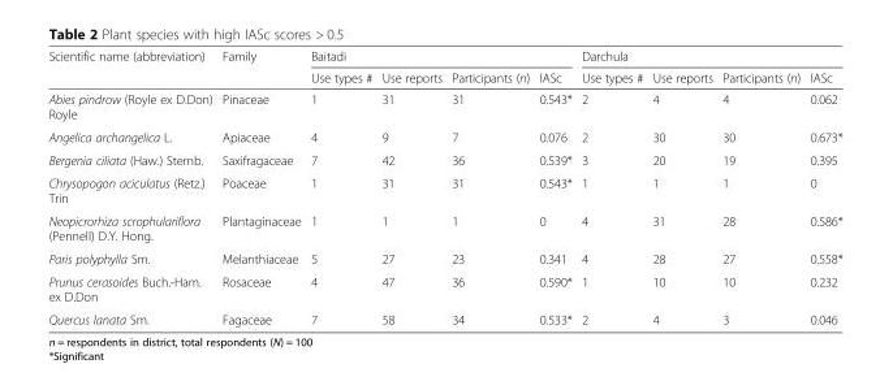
<table><thead><tr><td rowspan="2">Scientific name (abbreviation)</td><td rowspan="2">Family</td><td colspan="4">Baitadi</td><td colspan="4">Darchula</td></tr><tr><td>Use types #</td><td>Use reports</td><td>Participants (n)</td><td>IASc</td><td>Use types #</td><td>Use reports</td><td>Participants (n)</td><td>IASc</td></tr></thead><tbody><tr><td>Abies pindrow (Royle ex D.Don) Royle</td><td>Pinaceae</td><td>1</td><td>31</td><td>31</td><td>0.543*</td><td>2</td><td>4</td><td>4</td><td>0.062</td></tr><tr><td>Angelica archangelica L.</td><td>Apiaceae</td><td>4</td><td>9</td><td>7</td><td>0.076</td><td>2</td><td>30</td><td>30</td><td>0.673*</td></tr><tr><td>Bergenia ciliata (Haw.) Sternb.</td><td>Saxifragaceae</td><td>7</td><td>42</td><td>36</td><td>0.539*</td><td>3</td><td>20</td><td>19</td><td>0.395</td></tr><tr><td>Chrysopogon aciculatus (Retz.) Trin</td><td>Poaceae</td><td>1</td><td>31</td><td>31</td><td>0.543*</td><td>1</td><td>1</td><td>1</td><td>0</td></tr><tr><td>Neopicrorhiza scrophulariflora (Pennell) D.Y. Hong.</td><td>Plantaginaceae</td><td>1</td><td>1</td><td>1</td><td>0</td><td>4</td><td>31</td><td>28</td><td>0.586*</td></tr><tr><td>Paris polyphylla Sm.</td><td>Melanthiaceae</td><td>5</td><td>27</td><td>23</td><td>0.341</td><td>4</td><td>28</td><td>27</td><td>0.558*</td></tr><tr><td>Prunus cerasoides Buch.-Ham. ex D.Don</td><td>Rosaceae</td><td>4</td><td>47</td><td>36</td><td>0.590*</td><td>1</td><td>10</td><td>10</td><td>0.232</td></tr><tr><td>Quercus lanata Sm.</td><td>Fagaceae</td><td>7</td><td>58</td><td>34</td><td>0.533*</td><td>2</td><td>4</td><td>3</td><td>0.046</td></tr></tbody></table>